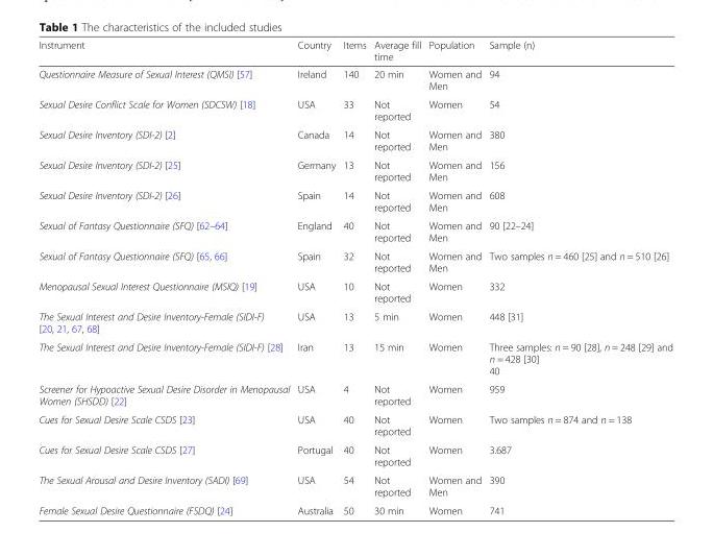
<table><thead><tr><td>Instrument</td><td>Country</td><td>Items</td><td>Average fill time</td><td>Population</td><td>Sample (n)</td></tr></thead><tbody><tr><td>Questionnaire Measure of Sexual Interest (QMSI) [57]</td><td>Ireland</td><td>140</td><td>20 min</td><td>Women and Men</td><td>94</td></tr><tr><td>Sexual Desire Conflict Scale for Women (SDCSW) [18]</td><td>USA</td><td>33</td><td>Not reported</td><td>Women</td><td>54</td></tr><tr><td>Sexual Desire Inventory (SDI-2) [2]</td><td>Canada</td><td>14</td><td>Not reported</td><td>Women and Men</td><td>380</td></tr><tr><td>Sexual Desire Inventory (SDI-2) [25]</td><td>Germany</td><td>13</td><td>Not reported</td><td>Women and Men</td><td>156</td></tr><tr><td>Sexual Desire Inventory (SDI-2) [26]</td><td>Spain</td><td>14</td><td>Not reported</td><td>Women and Men</td><td>608</td></tr><tr><td>Sexual of Fantasy Questionnaire (SFQ) [62–64]</td><td>England</td><td>40</td><td>Not reported</td><td>Women and Men</td><td>90 [22–24]</td></tr><tr><td>Sexual of Fantasy Questionnaire (SFQ) [65, 66]</td><td>Spain</td><td>32</td><td>Not reported</td><td>Women and Men</td><td>Two samples n = 460 [25] and n = 510 [26]</td></tr><tr><td>Menopausal Sexual Interest Questionnaire (MSIQ) [19]</td><td>USA</td><td>10</td><td>Not reported</td><td>Women</td><td>332</td></tr><tr><td>The Sexual Interest and Desire Inventory-Female (SIDI-F) [20, 21, 67, 68]</td><td>USA</td><td>13</td><td>5 min</td><td>Women</td><td>448 [31]</td></tr><tr><td>The Sexual Interest and Desire Inventory-Female (SIDI-F) [28]</td><td>Iran</td><td>13</td><td>15 min</td><td>Women</td><td>Three samples: n = 90 [28], n = 248 [29] and n = 428 [30] 40</td></tr><tr><td>Screener for Hypoactive Sexual Desire Disorder in Menopausal Women (SHSDD) [22]</td><td>USA</td><td>4</td><td>Not reported</td><td>Women</td><td>959</td></tr><tr><td>Cues for Sexual Desire Scale CSDS [23]</td><td>USA</td><td>40</td><td>Not reported</td><td>Women</td><td>Two samples n = 874 and n = 138</td></tr><tr><td>Cues for Sexual Desire Scale CSDS [27]</td><td>Portugal</td><td>40</td><td>Not reported</td><td>Women</td><td>3.687</td></tr><tr><td>The Sexual Arousal and Desire Inventory (SADI) [69]</td><td>USA</td><td>54</td><td>Not reported</td><td>Women and Men</td><td>390</td></tr><tr><td>Female Sexual Desire Questionnaire (FSDQ) [24]</td><td>Australia</td><td>50</td><td>30 min</td><td>Women</td><td>741</td></tr></tbody></table>